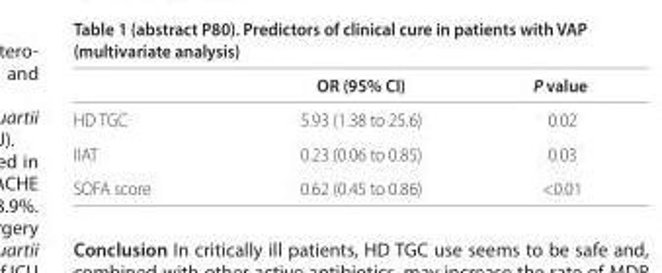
<table><thead><tr><td></td><td>OR (95% CI)</td><td>P value</td></tr></thead><tbody><tr><td>HD TGC</td><td>5.93 (1.38 to 25.6)</td><td>0.02</td></tr><tr><td>IIAT</td><td>0.23 (0.06 to 0.85)</td><td>0.03</td></tr><tr><td>SOFA score</td><td>0.62 (0.45 to 0.86)</td><td>&lt;0.01</td></tr></tbody></table>